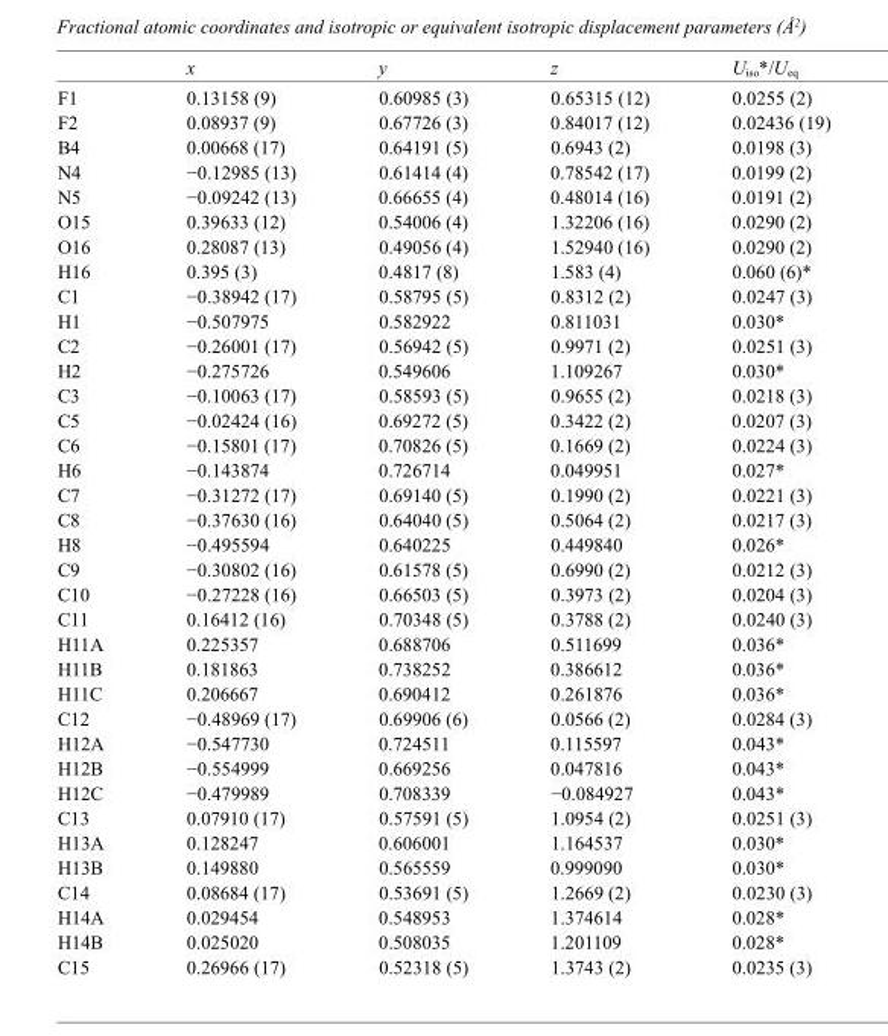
<table><thead><tr><td></td><td>x</td><td>y</td><td>z</td><td>U<sub>iso</sub>*/U<sub>eq</sub></td></tr></thead><tbody><tr><td>F1</td><td>0.13158 (9)</td><td>0.60985 (3)</td><td>0.65315 (12)</td><td>0.0255 (2)</td></tr><tr><td>F2</td><td>0.08937 (9)</td><td>0.67726 (3)</td><td>0.84017 (12)</td><td>0.02436 (19)</td></tr><tr><td>B4</td><td>0.00668 (17)</td><td>0.64191 (5)</td><td>0.6943 (2)</td><td>0.0198 (3)</td></tr><tr><td>N4</td><td>−0.12985 (13)</td><td>0.61414 (4)</td><td>0.78542 (17)</td><td>0.0199 (2)</td></tr><tr><td>N5</td><td>−0.09242 (13)</td><td>0.66655 (4)</td><td>0.48014 (16)</td><td>0.0191 (2)</td></tr><tr><td>O15</td><td>0.39633 (12)</td><td>0.54006 (4)</td><td>1.32206 (16)</td><td>0.0290 (2)</td></tr><tr><td>O16</td><td>0.28087 (13)</td><td>0.49056 (4)</td><td>1.52940 (16)</td><td>0.0290 (2)</td></tr><tr><td>H16</td><td>0.395 (3)</td><td>0.4817 (8)</td><td>1.583 (4)</td><td>0.060 (6)*</td></tr><tr><td>C1</td><td>−0.38942 (17)</td><td>0.58795 (5)</td><td>0.8312 (2)</td><td>0.0247 (3)</td></tr><tr><td>H1</td><td>−0.507975</td><td>0.582922</td><td>0.811031</td><td>0.030*</td></tr><tr><td>C2</td><td>−0.26001 (17)</td><td>0.56942 (5)</td><td>0.9971 (2)</td><td>0.0251 (3)</td></tr><tr><td>H2</td><td>−0.275726</td><td>0.549606</td><td>1.109267</td><td>0.030*</td></tr><tr><td>C3</td><td>−0.10063 (17)</td><td>0.58593 (5)</td><td>0.9655 (2)</td><td>0.0218 (3)</td></tr><tr><td>C5</td><td>−0.02424 (16)</td><td>0.69272 (5)</td><td>0.3422 (2)</td><td>0.0207 (3)</td></tr><tr><td>C6</td><td>−0.15801 (17)</td><td>0.70826 (5)</td><td>0.1669 (2)</td><td>0.0224 (3)</td></tr><tr><td>H6</td><td>−0.143874</td><td>0.726714</td><td>0.049951</td><td>0.027*</td></tr><tr><td>C7</td><td>−0.31272 (17)</td><td>0.69140 (5)</td><td>0.1990 (2)</td><td>0.0221 (3)</td></tr><tr><td>C8</td><td>−0.37630 (16)</td><td>0.64040 (5)</td><td>0.5064 (2)</td><td>0.0217 (3)</td></tr><tr><td>H8</td><td>−0.495594</td><td>0.640225</td><td>0.449840</td><td>0.026*</td></tr><tr><td>C9</td><td>−0.30802 (16)</td><td>0.61578 (5)</td><td>0.6990 (2)</td><td>0.0212 (3)</td></tr><tr><td>C10</td><td>−0.27228 (16)</td><td>0.66503 (5)</td><td>0.3973 (2)</td><td>0.0204 (3)</td></tr><tr><td>C11</td><td>0.16412 (16)</td><td>0.70348 (5)</td><td>0.3788 (2)</td><td>0.0240 (3)</td></tr><tr><td>H11A</td><td>0.225357</td><td>0.688706</td><td>0.511699</td><td>0.036*</td></tr><tr><td>H11B</td><td>0.181863</td><td>0.738252</td><td>0.386612</td><td>0.036*</td></tr><tr><td>H11C</td><td>0.206667</td><td>0.690412</td><td>0.261876</td><td>0.036*</td></tr><tr><td>C12</td><td>−0.48969 (17)</td><td>0.69906 (6)</td><td>0.0566 (2)</td><td>0.0284 (3)</td></tr><tr><td>H12A</td><td>−0.547730</td><td>0.724511</td><td>0.115597</td><td>0.043*</td></tr><tr><td>H12B</td><td>−0.554999</td><td>0.669256</td><td>0.047816</td><td>0.043*</td></tr><tr><td>H12C</td><td>−0.479989</td><td>0.708339</td><td>−0.084927</td><td>0.043*</td></tr><tr><td>C13</td><td>0.07910 (17)</td><td>0.57591 (5)</td><td>1.0954 (2)</td><td>0.0251 (3)</td></tr><tr><td>H13A</td><td>0.128247</td><td>0.606001</td><td>1.164537</td><td>0.030*</td></tr><tr><td>H13B</td><td>0.149880</td><td>0.565559</td><td>0.999090</td><td>0.030*</td></tr><tr><td>C14</td><td>0.08684 (17)</td><td>0.53691 (5)</td><td>1.2669 (2)</td><td>0.0230 (3)</td></tr><tr><td>H14A</td><td>0.029454</td><td>0.548953</td><td>1.374614</td><td>0.028*</td></tr><tr><td>H14B</td><td>0.025020</td><td>0.508035</td><td>1.201109</td><td>0.028*</td></tr><tr><td>C15</td><td>0.26966 (17)</td><td>0.52318 (5)</td><td>1.3743 (2)</td><td>0.0235 (3)</td></tr></tbody></table>